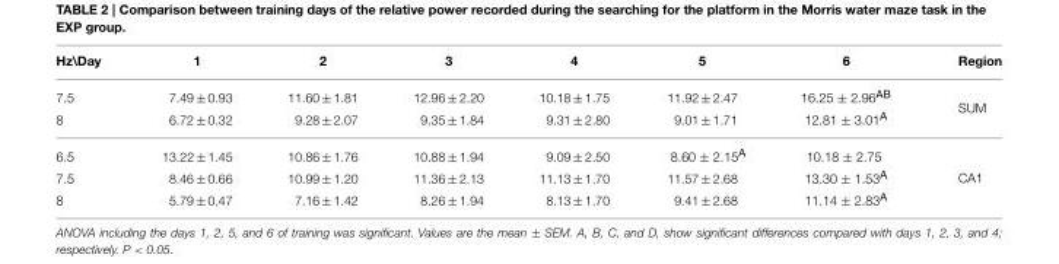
<table><thead><tr><td>Hz\Day</td><td>1</td><td>2</td><td>3</td><td>4</td><td>5</td><td>6</td><td>Region</td></tr></thead><tbody><tr><td>7.5</td><td>7.49 ± 0.93</td><td>11.60 ± 1.81</td><td>12.96 ± 2.20</td><td>10.18 ± 1.75</td><td>11.92 ± 2.47</td><td>16.25 ± 2.96<sup>AB</sup></td><td rowspan="2">SUM</td></tr><tr><td>8</td><td>6.72 ± 0.32</td><td>9.28 ± 2.07</td><td>9.35 ± 1.84</td><td>9.31 ± 2.80</td><td>9.01 ± 1.71</td><td>12.81 ± 3.01<sup>A</sup></td></tr><tr><td>6.5</td><td>13.22 ± 1.45</td><td>10.86 ± 1.76</td><td>10.88 ± 1.94</td><td>9.09 ± 2.50</td><td>8.60 ± 2.15<sup>A</sup></td><td>10.18 ± 2.75</td><td rowspan="3">CA1</td></tr><tr><td>7.5</td><td>8.46 ± 0.66</td><td>10.99 ± 1.20</td><td>11.36 ± 2.13</td><td>11.13 ± 1.70</td><td>11.57 ± 2.68</td><td>13.30 ± 1.53<sup>A</sup></td></tr><tr><td>8</td><td>5.79 ± 0.47</td><td>7.16 ± 1.42</td><td>8.26 ± 1.94</td><td>8.13 ± 1.70</td><td>9.41 ± 2.68</td><td>11.14 ± 2.83<sup>A</sup></td></tr></tbody></table>